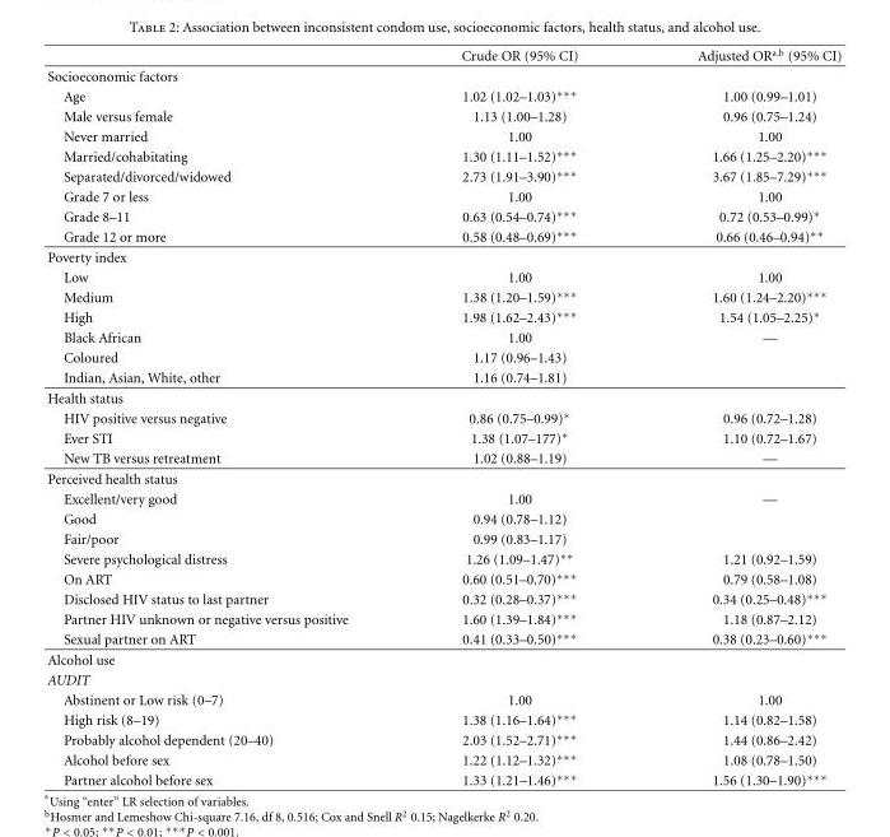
<table><thead><tr><td></td><td>Crude OR (95% CI)</td><td>Adjusted OR<sup>a,b</sup> (95% CI)</td></tr></thead><tbody><tr><td colspan="3">Socioeconomic factors</td></tr><tr><td>Age</td><td>1.02 (1.02–1.03)∗∗∗</td><td>1.00 (0.99–1.01)</td></tr><tr><td>Male versus female</td><td>1.13 (1.00–1.28)</td><td>0.96 (0.75–1.24)</td></tr><tr><td>Never married</td><td>1.00</td><td>1.00</td></tr><tr><td>Married/cohabitating</td><td>1.30 (1.11–1.52)∗∗∗</td><td>1.66 (1.25–2.20)∗∗∗</td></tr><tr><td>Separated/divorced/widowed</td><td>2.73 (1.91–3.90)∗∗∗</td><td>3.67 (1.85–7.29)∗∗∗</td></tr><tr><td>Grade 7 or less</td><td>1.00</td><td>1.00</td></tr><tr><td>Grade 8–11</td><td>0.63 (0.54–0.74)∗∗∗</td><td>0.72 (0.53–0.99)∗</td></tr><tr><td>Grade 12 or more</td><td>0.58 (0.48–0.69)∗∗∗</td><td>0.66 (0.46–0.94)∗∗</td></tr><tr><td colspan="3">Poverty index</td></tr><tr><td>Low</td><td>1.00</td><td>1.00</td></tr><tr><td>Medium</td><td>1.38 (1.20–1.59)∗∗∗</td><td>1.60 (1.24–2.20)∗∗∗</td></tr><tr><td>High</td><td>1.98 (1.62–2.43)∗∗∗</td><td>1.54 (1.05–2.25)∗</td></tr><tr><td>Black African</td><td>1.00</td><td>—</td></tr><tr><td>Coloured</td><td>1.17 (0.96–1.43)</td><td></td></tr><tr><td>Indian, Asian, White, other</td><td>1.16 (0.74–1.81)</td><td></td></tr><tr><td colspan="3">Health status</td></tr><tr><td>HIV positive versus negative</td><td>0.86 (0.75–0.99)∗</td><td>0.96 (0.72–1.28)</td></tr><tr><td>Ever STI</td><td>1.38 (1.07–177)∗</td><td>1.10 (0.72–1.67)</td></tr><tr><td>New TB versus retreatment</td><td>1.02 (0.88–1.19)</td><td>—</td></tr><tr><td colspan="3">Perceived health status</td></tr><tr><td>Excellent/very good</td><td>1.00</td><td>—</td></tr><tr><td>Good</td><td>0.94 (0.78–1.12)</td><td></td></tr><tr><td>Fair/poor</td><td>0.99 (0.83–1.17)</td><td></td></tr><tr><td>Severe psychological distress</td><td>1.26 (1.09–1.47)∗∗</td><td>1.21 (0.92–1.59)</td></tr><tr><td>On ART</td><td>0.60 (0.51–0.70)∗∗∗</td><td>0.79 (0.58–1.08)</td></tr><tr><td>Disclosed HIV status to last partner</td><td>0.32 (0.28–0.37)∗∗∗</td><td>0.34 (0.25–0.48)∗∗∗</td></tr><tr><td>Partner HIV unknown or negative versus positive</td><td>1.60 (1.39–1.84)∗∗∗</td><td>1.18 (0.87–2.12)</td></tr><tr><td>Sexual partner on ART</td><td>0.41 (0.33–0.50)∗∗∗</td><td>0.38 (0.23–0.60)∗∗∗</td></tr><tr><td colspan="3">Alcohol use</td></tr><tr><td colspan="3">AUDIT</td></tr><tr><td>Abstinent or Low risk (0–7)</td><td>1.00</td><td>1.00</td></tr><tr><td>High risk (8–19)</td><td>1.38 (1.16–1.64)∗∗∗</td><td>1.14 (0.82–1.58)</td></tr><tr><td>Probably alcohol dependent (20–40)</td><td>2.03 (1.52–2.71)∗∗∗</td><td>1.44 (0.86–2.42)</td></tr><tr><td>Alcohol before sex</td><td>1.22 (1.12–1.32)∗∗∗</td><td>1.08 (0.78–1.50)</td></tr><tr><td>Partner alcohol before sex</td><td>1.33 (1.21–1.46)∗∗∗</td><td>1.56 (1.30–1.90)∗∗∗</td></tr></tbody></table>